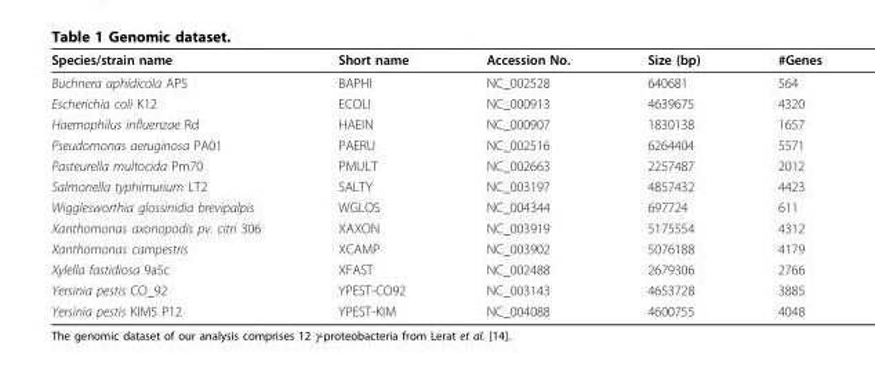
<table><thead><tr><td>Species/strain name</td><td>Short name</td><td>Accession No.</td><td>Size (bp)</td><td>#Genes</td></tr></thead><tbody><tr><td>Buchnera aphidicola APS</td><td>BAPHI</td><td>NC_002528</td><td>640681</td><td>564</td></tr><tr><td>Escherichia coli K12</td><td>ECOLI</td><td>NC_000913</td><td>4639675</td><td>4320</td></tr><tr><td>Haemophilus influenzae Rd</td><td>HAEIN</td><td>NC_000907</td><td>1830138</td><td>1657</td></tr><tr><td>Pseudomonas aeruginosa PA01</td><td>PAERU</td><td>NC_002516</td><td>6264404</td><td>5571</td></tr><tr><td>Pasteurella multocida Pm70</td><td>PMULT</td><td>NC_002663</td><td>2257487</td><td>2012</td></tr><tr><td>Salmonella typhimurium LT2</td><td>SALTY</td><td>NC_003197</td><td>4857432</td><td>4423</td></tr><tr><td>Wigglesworthia glossinidia brevipalpis</td><td>WGLOS</td><td>NC_004344</td><td>697724</td><td>611</td></tr><tr><td>Xanthomonas axonopodis pv. citri 306</td><td>XAXON</td><td>NC_003919</td><td>5175554</td><td>4312</td></tr><tr><td>Xanthomonas campestris</td><td>XCAMP</td><td>NC_003902</td><td>5076188</td><td>4179</td></tr><tr><td>Xylella fastidiosa 9a5c</td><td>XFAST</td><td>NC_002488</td><td>2679306</td><td>2766</td></tr><tr><td>Yersinia pestis CO_92</td><td>YPEST-CO92</td><td>NC_003143</td><td>4653728</td><td>3885</td></tr><tr><td>Yersinia pestis KIM5 P12</td><td>YPEST-KIM</td><td>NC_004088</td><td>4600755</td><td>4048</td></tr></tbody></table>